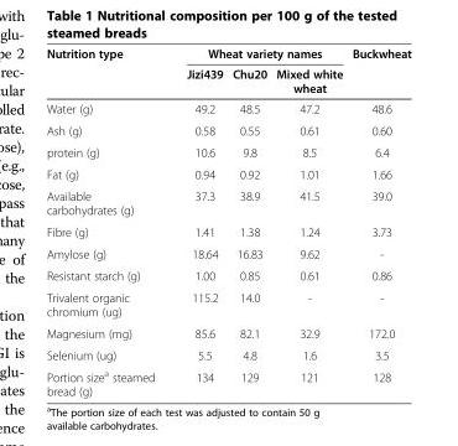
<table><thead><tr><td rowspan="2">Nutrition type</td><td colspan="3">Wheat variety names</td><td rowspan="2">Buckwheat</td></tr><tr><td>Jizi439</td><td>Chu20</td><td>Mixed white wheat</td></tr></thead><tbody><tr><td>Water (g)</td><td>49.2</td><td>48.5</td><td>47.2</td><td>48.6</td></tr><tr><td>Ash (g)</td><td>0.58</td><td>0.55</td><td>0.61</td><td>0.60</td></tr><tr><td>protein (g)</td><td>10.6</td><td>9.8</td><td>8.5</td><td>6.4</td></tr><tr><td>Fat (g)</td><td>0.94</td><td>0.92</td><td>1.01</td><td>1.66</td></tr><tr><td>Available carbohydrates (g)</td><td>37.3</td><td>38.9</td><td>41.5</td><td>39.0</td></tr><tr><td>Fibre (g)</td><td>1.41</td><td>1.38</td><td>1.24</td><td>3.73</td></tr><tr><td>Amylose (g)</td><td>18.64</td><td>16.83</td><td>9.62</td><td>-</td></tr><tr><td>Resistant starch (g)</td><td>1.00</td><td>0.85</td><td>0.61</td><td>0.86</td></tr><tr><td>Trivalent organic chromium (ug)</td><td>115.2</td><td>14.0</td><td>-</td><td>-</td></tr><tr><td>Magnesium (mg)</td><td>85.6</td><td>82.1</td><td>32.9</td><td>172.0</td></tr><tr><td>Selenium (ug)</td><td>5.5</td><td>4.8</td><td>1.6</td><td>3.5</td></tr><tr><td>Portion size<sup>a</sup> steamed bread (g)</td><td>134</td><td>129</td><td>121</td><td>128</td></tr></tbody></table>